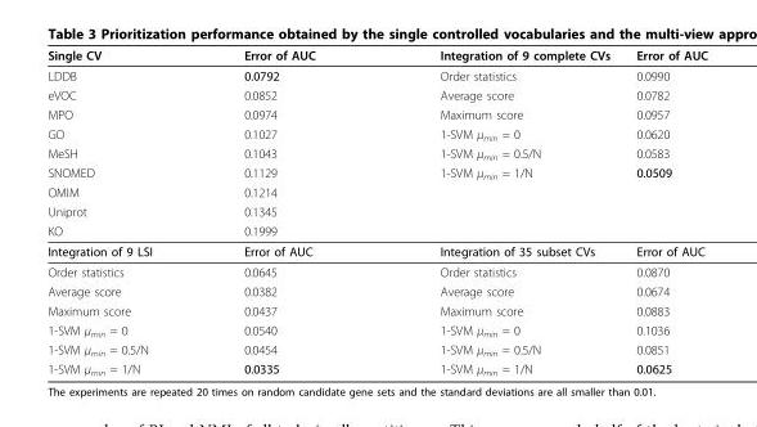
<table><thead><tr><td>Single CV</td><td>Error of AUC</td><td>Integration of 9 complete CVs</td><td>Error of AUC</td></tr></thead><tbody><tr><td>LDDB</td><td>0.0792</td><td>Order statistics</td><td>0.0990</td></tr><tr><td>eVOC</td><td>0.0852</td><td>Average score</td><td>0.0782</td></tr><tr><td>MPO</td><td>0.0974</td><td>Maximum score</td><td>0.0957</td></tr><tr><td>GO</td><td>0.1027</td><td>1-SVM μ<sub>min</sub> = 0</td><td>0.0620</td></tr><tr><td>MeSH</td><td>0.1043</td><td>1-SVM μ<sub>min</sub> = 0.5/N</td><td>0.0583</td></tr><tr><td>SNOMED</td><td>0.1129</td><td>1-SVM μ<sub>min</sub> = 1/N</td><td>0.0509</td></tr><tr><td>OMIM</td><td>0.1214</td><td></td><td></td></tr><tr><td>Uniprot</td><td>0.1345</td><td></td><td></td></tr><tr><td>KO</td><td>0.1999</td><td></td><td></td></tr><tr><td>Integration of 9 LSI</td><td>Error of AUC</td><td>Integration of 35 subset CVs</td><td>Error of AUC</td></tr><tr><td>Order statistics</td><td>0.0645</td><td>Order statistics</td><td>0.0870</td></tr><tr><td>Average score</td><td>0.0382</td><td>Average score</td><td>0.0674</td></tr><tr><td>Maximum score</td><td>0.0437</td><td>Maximum score</td><td>0.0883</td></tr><tr><td>1-SVM μ<sub>min</sub> = 0</td><td>0.0540</td><td>1-SVM μ<sub>min</sub> = 0</td><td>0.1036</td></tr><tr><td>1-SVM μ<sub>min</sub> = 0.5/N</td><td>0.0454</td><td>1-SVM μ<sub>min</sub> = 0.5/N</td><td>0.0851</td></tr><tr><td>1-SVM μ<sub>min</sub> = 1/N</td><td>0.0335</td><td>1-SVM μ<sub>min</sub> = 1/N</td><td>0.0625</td></tr></tbody></table>